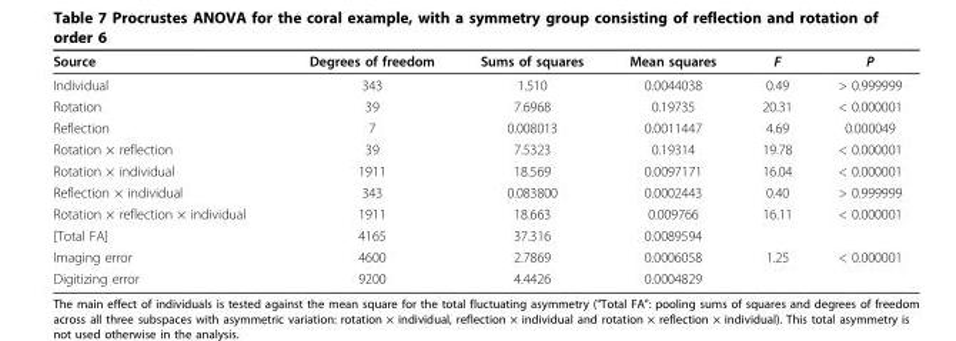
<table><thead><tr><td>Source</td><td>Degrees of freedom</td><td>Sums of squares</td><td>Mean squares</td><td>F</td><td>P</td></tr></thead><tbody><tr><td>Individual</td><td>343</td><td>1.510</td><td>0.0044038</td><td>0.49</td><td>&gt; 0.999999</td></tr><tr><td>Rotation</td><td>39</td><td>7.6968</td><td>0.19735</td><td>20.31</td><td>&lt; 0.000001</td></tr><tr><td>Reflection</td><td>7</td><td>0.008013</td><td>0.0011447</td><td>4.69</td><td>0.000049</td></tr><tr><td>Rotation × reflection</td><td>39</td><td>7.5323</td><td>0.19314</td><td>19.78</td><td>&lt; 0.000001</td></tr><tr><td>Rotation × individual</td><td>1911</td><td>18.569</td><td>0.0097171</td><td>16.04</td><td>&lt; 0.000001</td></tr><tr><td>Reflection × individual</td><td>343</td><td>0.083800</td><td>0.0002443</td><td>0.40</td><td>&gt; 0.999999</td></tr><tr><td>Rotation × reflection × individual</td><td>1911</td><td>18.663</td><td>0.009766</td><td>16.11</td><td>&lt; 0.000001</td></tr><tr><td>[Total FA]</td><td>4165</td><td>37.316</td><td>0.0089594</td><td></td><td></td></tr><tr><td>Imaging error</td><td>4600</td><td>2.7869</td><td>0.0006058</td><td>1.25</td><td>&lt; 0.000001</td></tr><tr><td>Digitizing error</td><td>9200</td><td>4.4426</td><td>0.0004829</td><td></td><td></td></tr></tbody></table>